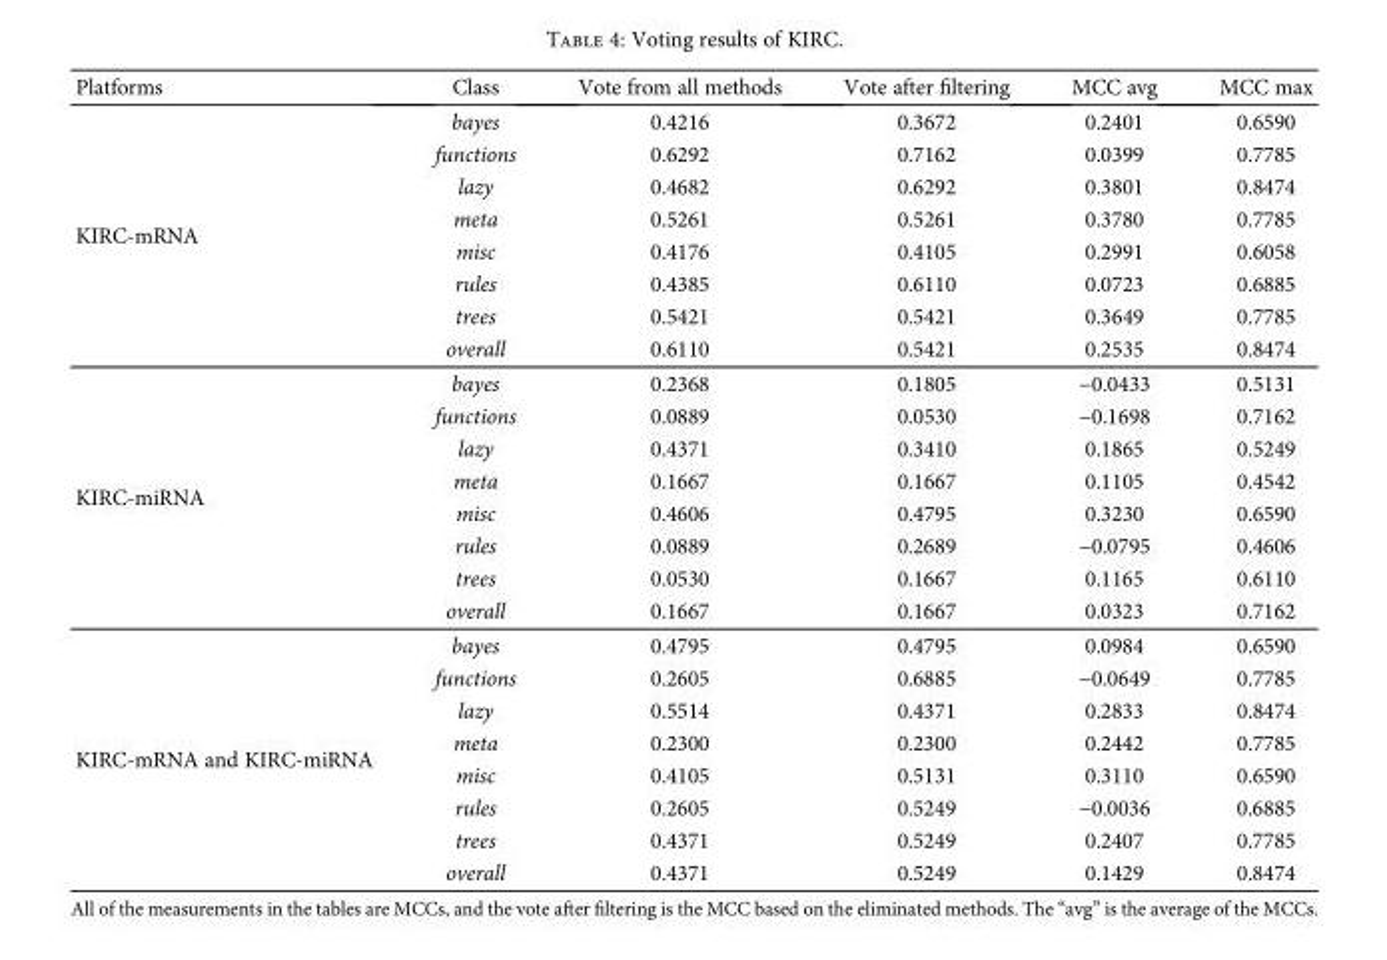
<table><thead><tr><td>Platforms</td><td>Class</td><td>Vote from all methods</td><td>Vote after filtering</td><td>MCC avg</td><td>MCC max</td></tr></thead><tbody><tr><td rowspan="8">KIRC-mRNA</td><td>bayes</td><td>0.4216</td><td>0.3672</td><td>0.2401</td><td>0.6590</td></tr><tr><td>functions</td><td>0.6292</td><td>0.7162</td><td>0.0399</td><td>0.7785</td></tr><tr><td>lazy</td><td>0.4682</td><td>0.6292</td><td>0.3801</td><td>0.8474</td></tr><tr><td>meta</td><td>0.5261</td><td>0.5261</td><td>0.3780</td><td>0.7785</td></tr><tr><td>misc</td><td>0.4176</td><td>0.4105</td><td>0.2991</td><td>0.6058</td></tr><tr><td>rules</td><td>0.4385</td><td>0.6110</td><td>0.0723</td><td>0.6885</td></tr><tr><td>trees</td><td>0.5421</td><td>0.5421</td><td>0.3649</td><td>0.7785</td></tr><tr><td>overall</td><td>0.6110</td><td>0.5421</td><td>0.2535</td><td>0.8474</td></tr><tr><td rowspan="8">KIRC-miRNA</td><td>bayes</td><td>0.2368</td><td>0.1805</td><td>−0.0433</td><td>0.5131</td></tr><tr><td>functions</td><td>0.0889</td><td>0.0530</td><td>−0.1698</td><td>0.7162</td></tr><tr><td>lazy</td><td>0.4371</td><td>0.3410</td><td>0.1865</td><td>0.5249</td></tr><tr><td>meta</td><td>0.1667</td><td>0.1667</td><td>0.1105</td><td>0.4542</td></tr><tr><td>misc</td><td>0.4606</td><td>0.4795</td><td>0.3230</td><td>0.6590</td></tr><tr><td>rules</td><td>0.0889</td><td>0.2689</td><td>−0.0795</td><td>0.4606</td></tr><tr><td>trees</td><td>0.0530</td><td>0.1667</td><td>0.1165</td><td>0.6110</td></tr><tr><td>overall</td><td>0.1667</td><td>0.1667</td><td>0.0323</td><td>0.7162</td></tr><tr><td rowspan="8">KIRC-mRNA and KIRC-miRNA</td><td>bayes</td><td>0.4795</td><td>0.4795</td><td>0.0984</td><td>0.6590</td></tr><tr><td>functions</td><td>0.2605</td><td>0.6885</td><td>−0.0649</td><td>0.7785</td></tr><tr><td>lazy</td><td>0.5514</td><td>0.4371</td><td>0.2833</td><td>0.8474</td></tr><tr><td>meta</td><td>0.2300</td><td>0.2300</td><td>0.2442</td><td>0.7785</td></tr><tr><td>misc</td><td>0.4105</td><td>0.5131</td><td>0.3110</td><td>0.6590</td></tr><tr><td>rules</td><td>0.2605</td><td>0.5249</td><td>−0.0036</td><td>0.6885</td></tr><tr><td>trees</td><td>0.4371</td><td>0.5249</td><td>0.2407</td><td>0.7785</td></tr><tr><td>overall</td><td>0.4371</td><td>0.5249</td><td>0.1429</td><td>0.8474</td></tr></tbody></table>